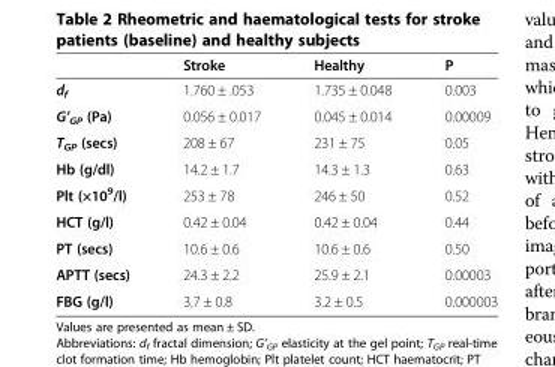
<table><thead><tr><td></td><td>Stroke</td><td>Healthy</td><td>P</td></tr></thead><tbody><tr><td>d<sub>f</sub></td><td>1.760 ± .053</td><td>1.735 ± 0.048</td><td>0.003</td></tr><tr><td>G’<sub>GP</sub> (Pa)</td><td>0.056 ± 0.017</td><td>0.045 ± 0.014</td><td>0.00009</td></tr><tr><td>T<sub>GP</sub> (secs)</td><td>208 ± 67</td><td>231 ± 75</td><td>0.05</td></tr><tr><td>Hb (g/dl)</td><td>14.2 ± 1.7</td><td>14.3 ± 1.3</td><td>0.63</td></tr><tr><td>Plt (×10<sup>9</sup>/l)</td><td>253 ± 78</td><td>246 ± 50</td><td>0.52</td></tr><tr><td>HCT (g/l)</td><td>0.42 ± 0.04</td><td>0.42 ± 0.04</td><td>0.44</td></tr><tr><td>PT (secs)</td><td>10.6 ± 0.6</td><td>10.6 ± 0.6</td><td>0.50</td></tr><tr><td>APTT (secs)</td><td>24.3 ± 2.2</td><td>25.9 ± 2.1</td><td>0.00003</td></tr><tr><td>FBG (g/l)</td><td>3.7 ± 0.8</td><td>3.2 ± 0.5</td><td>0.000003</td></tr></tbody></table>